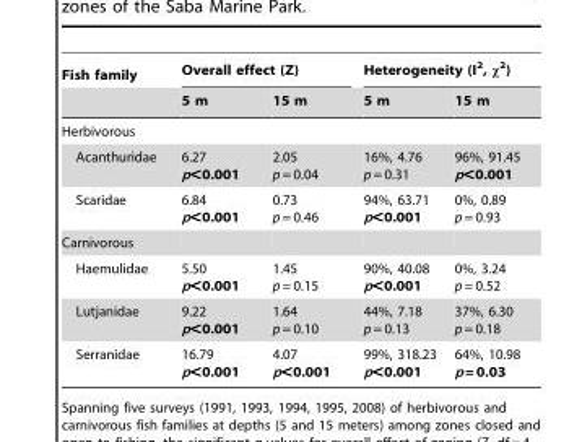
<table><thead><tr><td rowspan="2">Fish family</td><td colspan="2">Overall effect (Z)</td><td colspan="2">Heterogeneity (I<sup>2</sup>, χ<sup>2</sup>)</td></tr><tr><td>5 m</td><td>15 m</td><td>5 m</td><td>15 m</td></tr></thead><tbody><tr><td colspan="5">Herbivorous</td></tr><tr><td>Acanthuridae</td><td>6.27 p&lt;0.001</td><td>2.05 p = 0.04</td><td>16%, 4.76 p = 0.31</td><td>96%, 91.45 p&lt;0.001</td></tr><tr><td>Scaridae</td><td>6.84 p&lt;0.001</td><td>0.73 p = 0.46</td><td>94%, 63.71 p&lt;0.001</td><td>0%, 0.89 p = 0.93</td></tr><tr><td colspan="5">Carnivorous</td></tr><tr><td>Haemulidae</td><td>5.50 p&lt;0.001</td><td>1.45 p = 0.15</td><td>90%, 40.08 p&lt;0.001</td><td>0%, 3.24 p = 0.52</td></tr><tr><td>Lutjanidae</td><td>9.22 p&lt;0.001</td><td>1.64 p = 0.10</td><td>44%, 7.18 p = 0.13</td><td>37%, 6.30 p = 0.18</td></tr><tr><td>Serranidae</td><td>16.79 p&lt;0.001</td><td>4.07 p&lt;0.001</td><td>99%, 318.23 p&lt;0.001</td><td>64%, 10.98 p = 0.03</td></tr></tbody></table>